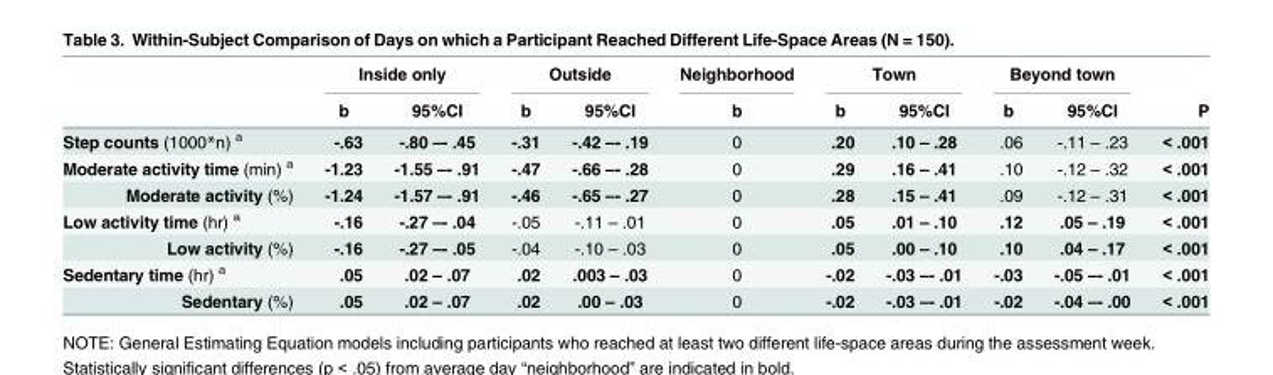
<table><thead><tr><td rowspan="2"></td><td colspan="2">Inside only</td><td colspan="2">Outside</td><td rowspan="2">Neighborhood b</td><td colspan="2">Town</td><td colspan="2">Beyond town</td><td rowspan="2">P</td></tr><tr><td>b</td><td>95%CI</td><td>b</td><td>95%CI</td><td>b</td><td>95%CI</td><td>b</td><td>95%CI</td></tr></thead><tbody><tr><td>Step counts (1000*n) <sup>a</sup></td><td>-.63</td><td>-.80 –- .45</td><td>-.31</td><td>-.42 –- .19</td><td>0</td><td>.20</td><td>.10 – .28</td><td>.06</td><td>-.11 – .23</td><td>&lt; .001</td></tr><tr><td>Moderate activity time (min) <sup>a</sup></td><td>-1.23</td><td>-1.55 –- .91</td><td>-.47</td><td>-.66 –- .28</td><td>0</td><td>.29</td><td>.16 – .41</td><td>.10</td><td>-.12 – .32</td><td>&lt; .001</td></tr><tr><td>Moderate activity (%)</td><td>-1.24</td><td>-1.57 –- .91</td><td>-.46</td><td>-.65 –- .27</td><td>0</td><td>.28</td><td>.15 – .41</td><td>.09</td><td>-.12 – .31</td><td>&lt; .001</td></tr><tr><td>Low activity time (hr) <sup>a</sup></td><td>-.16</td><td>-.27 –- .04</td><td>-.05</td><td>-.11 – .01</td><td>0</td><td>.05</td><td>.01 – .10</td><td>.12</td><td>.05 – .19</td><td>&lt; .001</td></tr><tr><td>Low activity (%)</td><td>-.16</td><td>-.27 –- .05</td><td>-.04</td><td>-.10 – .03</td><td>0</td><td>.05</td><td>.00 – .10</td><td>.10</td><td>.04 – .17</td><td>&lt; .001</td></tr><tr><td>Sedentary time (hr) <sup>a</sup></td><td>.05</td><td>.02 – .07</td><td>.02</td><td>.003 – .03</td><td>0</td><td>-.02</td><td>-.03 –- .01</td><td>-.03</td><td>-.05 –- .01</td><td>&lt; .001</td></tr><tr><td>Sedentary (%)</td><td>.05</td><td>.02 – .07</td><td>.02</td><td>.00 – .03</td><td>0</td><td>-.02</td><td>-.03 –- .01</td><td>-.02</td><td>-.04 –- .00</td><td>&lt; .001</td></tr></tbody></table>